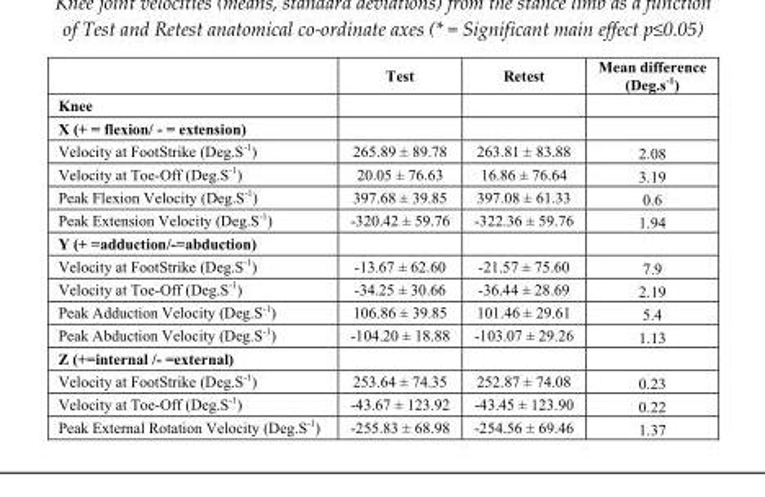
<table><thead><tr><td></td><td>Test</td><td>Retest</td><td>Mean difference (Deg.s<sup>-1</sup>)</td></tr></thead><tbody><tr><td colspan="4">Knee</td></tr><tr><td colspan="4">X (+ = flexion/ - = extension)</td></tr><tr><td>Velocity at FootStrike (Deg.S<sup>-1</sup>)</td><td>265.89 ± 89.78</td><td>263.81 ± 83.88</td><td>2.08</td></tr><tr><td>Velocity at Toe-Off (Deg.S<sup>-1</sup>)</td><td>20.05 ± 76.63</td><td>16.86 ± 76.64</td><td>3.19</td></tr><tr><td>Peak Flexion Velocity (Deg.S<sup>-1</sup>)</td><td>397.68 ± 39.85</td><td>397.08 ± 61.33</td><td>0.6</td></tr><tr><td>Peak Extension Velocity (Deg.S<sup>-1</sup>)</td><td>-320.42 ± 59.76</td><td>-322.36 ± 59.76</td><td>1.94</td></tr><tr><td colspan="4">Y (+ =adduction/-=abduction)</td></tr><tr><td>Velocity at FootStrike (Deg.S<sup>-1</sup>)</td><td>-13.67 ± 62.60</td><td>-21.57 ± 75.60</td><td>7.9</td></tr><tr><td>Velocity at Toe-Off (Deg.S<sup>-1</sup>)</td><td>-34.25 ± 30.66</td><td>-36.44 ± 28.69</td><td>2.19</td></tr><tr><td>Peak Adduction Velocity (Deg.S<sup>-1</sup>)</td><td>106.86 ± 39.85</td><td>101.46 ± 29.61</td><td>5.4</td></tr><tr><td>Peak Abduction Velocity (Deg.S<sup>-1</sup>)</td><td>-104.20 ± 18.88</td><td>-103.07 ± 29.26</td><td>1.13</td></tr><tr><td colspan="4">Z (+=internal /- =external)</td></tr><tr><td>Velocity at FootStrike (Deg.S<sup>-1</sup>)</td><td>253.64 ± 74.35</td><td>252.87 ± 74.08</td><td>0.23</td></tr><tr><td>Velocity at Toe-Off (Deg.S<sup>-1</sup>)</td><td>-43.67 ± 123.92</td><td>-43.45 ± 123.90</td><td>0.22</td></tr><tr><td>Peak External Rotation Velocity (Deg.S<sup>-1</sup>)</td><td>-255.83 ± 68.98</td><td>-254.56 ± 69.46</td><td>1.37</td></tr></tbody></table>